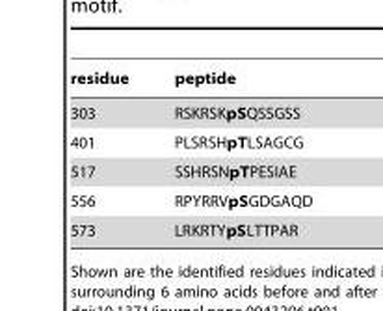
<table><thead><tr><td>residue</td><td>peptide</td></tr></thead><tbody><tr><td>303</td><td>RSKRSKpSQSSGSS</td></tr><tr><td>401</td><td>PLSRSHpTLSAGCG</td></tr><tr><td>517</td><td>SSHRSNpTPESIAE</td></tr><tr><td>556</td><td>RPYRRVpSGDGAQD</td></tr><tr><td>573</td><td>LRKRTYpSLTTPAR</td></tr></tbody></table>